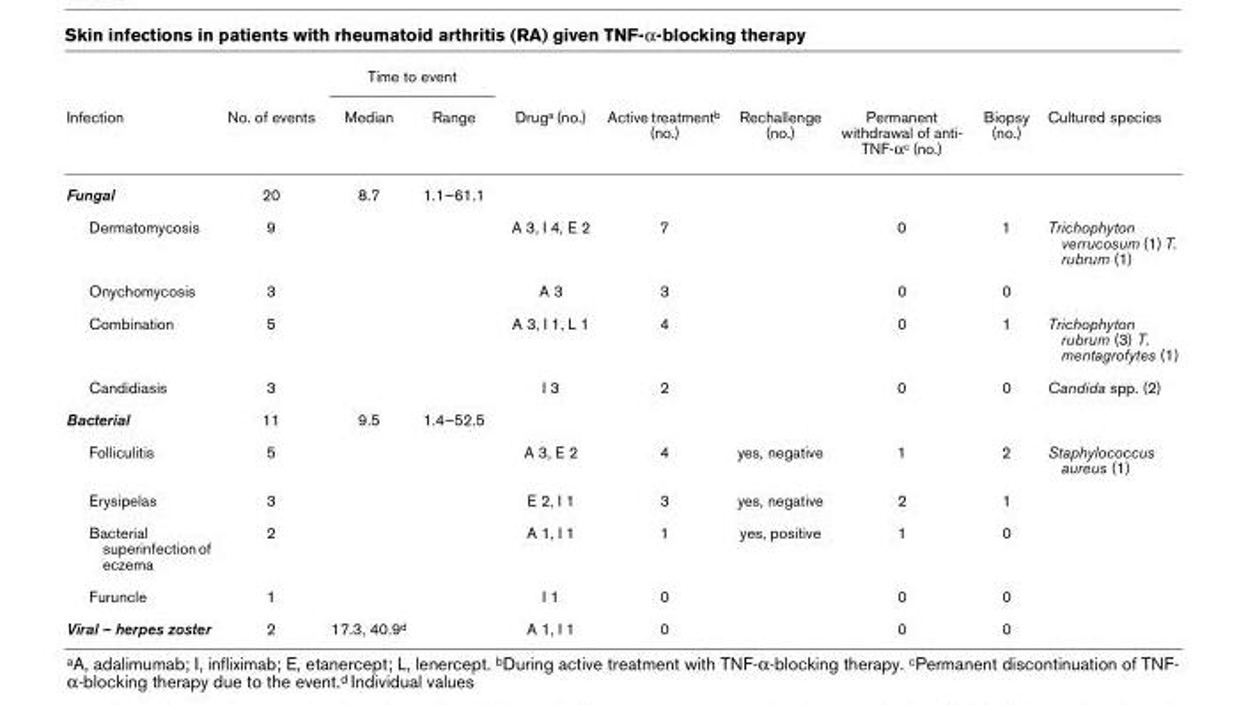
<table><thead><tr><td rowspan="2">Infection</td><td rowspan="2">No. of events</td><td colspan="2">Time to event</td><td rowspan="2">Druga (no.)</td><td rowspan="2">Active treatmentb (no.)</td><td rowspan="2">Rechallenge (no.)</td><td rowspan="2">Permanent withdrawal of anti- TNF-αc (no.)</td><td rowspan="2">Biopsy (no.)</td><td rowspan="2">Cultured species</td></tr><tr><td>Median</td><td>Range</td></tr></thead><tbody><tr><td>Fungal</td><td>20</td><td>8.7</td><td>1.1–61.1</td><td></td><td></td><td></td><td></td><td></td><td></td></tr><tr><td>Dermatomycosis</td><td>9</td><td></td><td></td><td>A 3, I 4, E 2</td><td>7</td><td></td><td>0</td><td>1</td><td>Trichophyton verrucosum (1) T. rubrum (1)</td></tr><tr><td>Onychomycosis</td><td>3</td><td></td><td></td><td>A 3</td><td>3</td><td></td><td>0</td><td>0</td><td></td></tr><tr><td>Combination</td><td>5</td><td></td><td></td><td>A 3, I 1, L 1</td><td>4</td><td></td><td>0</td><td>1</td><td>Trichophyton rubrum (3) T. mentagrofytes (1)</td></tr><tr><td>Candidiasis</td><td>3</td><td></td><td></td><td>I 3</td><td>2</td><td></td><td>0</td><td>0</td><td>Candida spp. (2)</td></tr><tr><td>Bacterial</td><td>11</td><td>9.5</td><td>1.4–52.5</td><td></td><td></td><td></td><td></td><td></td><td></td></tr><tr><td>Folliculitis</td><td>5</td><td></td><td></td><td>A 3, E 2</td><td>4</td><td>yes, negative</td><td>1</td><td>2</td><td>Staphylococcus aureus (1)</td></tr><tr><td>Erysipelas</td><td>3</td><td></td><td></td><td>E 2, I 1</td><td>3</td><td>yes, negative</td><td>2</td><td>1</td><td></td></tr><tr><td>Bacterial superinfection of eczema</td><td>2</td><td></td><td></td><td>A 1, I 1</td><td>1</td><td>yes, positive</td><td>1</td><td>0</td><td></td></tr><tr><td>Furuncle</td><td>1</td><td></td><td></td><td>I 1</td><td>0</td><td></td><td>0</td><td>0</td><td></td></tr><tr><td>Viral – herpes zoster</td><td>2</td><td>17.3, 40.9d</td><td></td><td>A 1, I 1</td><td>0</td><td></td><td>0</td><td>0</td><td></td></tr></tbody></table>